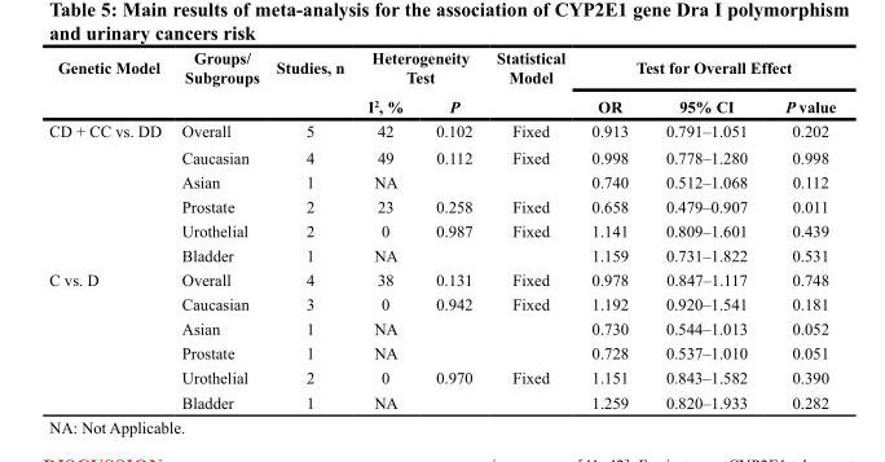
<table><thead><tr><td rowspan="2">Genetic Model</td><td rowspan="2">Groups/ Subgroups</td><td rowspan="2">Studies, n</td><td colspan="2">Heterogeneity Test</td><td rowspan="2">Statistical Model</td><td colspan="3">Test for Overall Effect</td></tr><tr><td>I<sup>2</sup>, %</td><td>P</td><td>OR</td><td>95% CI</td><td>P value</td></tr></thead><tbody><tr><td rowspan="6">CD + CC vs. DD</td><td>Overall</td><td>5</td><td>42</td><td>0.102</td><td>Fixed</td><td>0.913</td><td>0.791–1.051</td><td>0.202</td></tr><tr><td>Caucasian</td><td>4</td><td>49</td><td>0.112</td><td>Fixed</td><td>0.998</td><td>0.778–1.280</td><td>0.998</td></tr><tr><td>Asian</td><td>1</td><td>NA</td><td></td><td></td><td>0.740</td><td>0.512–1.068</td><td>0.112</td></tr><tr><td>Prostate</td><td>2</td><td>23</td><td>0.258</td><td>Fixed</td><td>0.658</td><td>0.479–0.907</td><td>0.011</td></tr><tr><td>Urothelial</td><td>2</td><td>0</td><td>0.987</td><td>Fixed</td><td>1.141</td><td>0.809–1.601</td><td>0.439</td></tr><tr><td>Bladder</td><td>1</td><td>NA</td><td></td><td></td><td>1.159</td><td>0.731–1.822</td><td>0.531</td></tr><tr><td rowspan="6">C vs. D</td><td>Overall</td><td>4</td><td>38</td><td>0.131</td><td>Fixed</td><td>0.978</td><td>0.847–1.117</td><td>0.748</td></tr><tr><td>Caucasian</td><td>3</td><td>0</td><td>0.942</td><td>Fixed</td><td>1.192</td><td>0.920–1.541</td><td>0.181</td></tr><tr><td>Asian</td><td>1</td><td>NA</td><td></td><td></td><td>0.730</td><td>0.544–1.013</td><td>0.052</td></tr><tr><td>Prostate</td><td>1</td><td>NA</td><td></td><td></td><td>0.728</td><td>0.537–1.010</td><td>0.051</td></tr><tr><td>Urothelial</td><td>2</td><td>0</td><td>0.970</td><td>Fixed</td><td>1.151</td><td>0.843–1.582</td><td>0.390</td></tr><tr><td>Bladder</td><td>1</td><td>NA</td><td></td><td></td><td>1.259</td><td>0.820–1.933</td><td>0.282</td></tr></tbody></table>